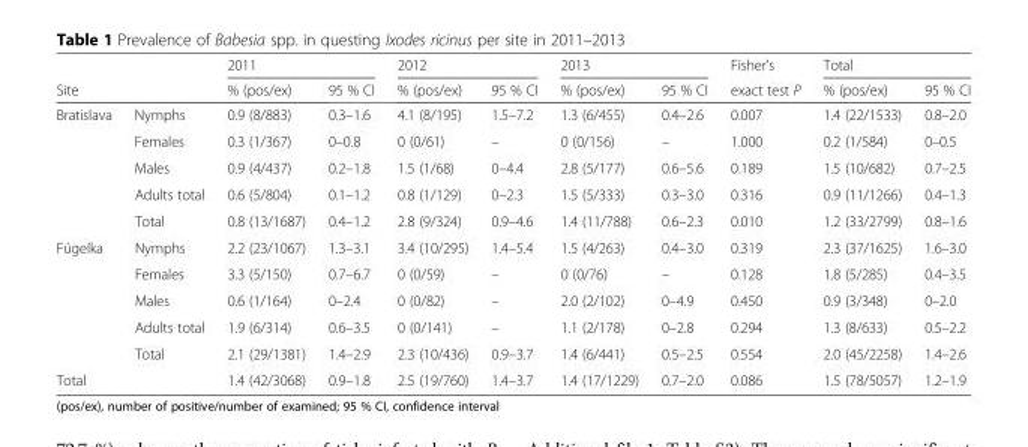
<table><thead><tr><td rowspan="2">Site</td><td rowspan="2"></td><td colspan="2">2011</td><td colspan="2">2012</td><td colspan="2">2013</td><td rowspan="2">Fisher’s exact test P</td><td colspan="2">Total</td></tr><tr><td>% (pos/ex)</td><td>95 % CI</td><td>% (pos/ex)</td><td>95 % CI</td><td>% (pos/ex)</td><td>95 % CI</td><td>% (pos/ex)</td><td>95 % CI</td></tr></thead><tbody><tr><td rowspan="5">Bratislava</td><td>Nymphs</td><td>0.9 (8/883)</td><td>0.3–1.6</td><td>4.1 (8/195)</td><td>1.5–7.2</td><td>1.3 (6/455)</td><td>0.4–2.6</td><td>0.007</td><td>1.4 (22/1533)</td><td>0.8–2.0</td></tr><tr><td>Females</td><td>0.3 (1/367)</td><td>0–0.8</td><td>0 (0/61)</td><td>–</td><td>0 (0/156)</td><td>–</td><td>1.000</td><td>0.2 (1/584)</td><td>0–0.5</td></tr><tr><td>Males</td><td>0.9 (4/437)</td><td>0.2–1.8</td><td>1.5 (1/68)</td><td>0–4.4</td><td>2.8 (5/177)</td><td>0.6–5.6</td><td>0.189</td><td>1.5 (10/682)</td><td>0.7–2.5</td></tr><tr><td>Adults total</td><td>0.6 (5/804)</td><td>0.1–1.2</td><td>0.8 (1/129)</td><td>0–2.3</td><td>1.5 (5/333)</td><td>0.3–3.0</td><td>0.316</td><td>0.9 (11/1266)</td><td>0.4–1.3</td></tr><tr><td>Total</td><td>0.8 (13/1687)</td><td>0.4–1.2</td><td>2.8 (9/324)</td><td>0.9–4.6</td><td>1.4 (11/788)</td><td>0.6–2.3</td><td>0.010</td><td>1.2 (33/2799)</td><td>0.8–1.6</td></tr><tr><td rowspan="5">Fúgelka</td><td>Nymphs</td><td>2.2 (23/1067)</td><td>1.3–3.1</td><td>3.4 (10/295)</td><td>1.4–5.4</td><td>1.5 (4/263)</td><td>0.4–3.0</td><td>0.319</td><td>2.3 (37/1625)</td><td>1.6–3.0</td></tr><tr><td>Females</td><td>3.3 (5/150)</td><td>0.7–6.7</td><td>0 (0/59)</td><td>–</td><td>0 (0/76)</td><td>–</td><td>0.128</td><td>1.8 (5/285)</td><td>0.4–3.5</td></tr><tr><td>Males</td><td>0.6 (1/164)</td><td>0–2.4</td><td>0 (0/82)</td><td>–</td><td>2.0 (2/102)</td><td>0–4.9</td><td>0.450</td><td>0.9 (3/348)</td><td>0–2.0</td></tr><tr><td>Adults total</td><td>1.9 (6/314)</td><td>0.6–3.5</td><td>0 (0/141)</td><td>–</td><td>1.1 (2/178)</td><td>0–2.8</td><td>0.294</td><td>1.3 (8/633)</td><td>0.5–2.2</td></tr><tr><td>Total</td><td>2.1 (29/1381)</td><td>1.4–2.9</td><td>2.3 (10/436)</td><td>0.9–3.7</td><td>1.4 (6/441)</td><td>0.5–2.5</td><td>0.554</td><td>2.0 (45/2258)</td><td>1.4–2.6</td></tr><tr><td>Total</td><td></td><td>1.4 (42/3068)</td><td>0.9–1.8</td><td>2.5 (19/760)</td><td>1.4–3.7</td><td>1.4 (17/1229)</td><td>0.7–2.0</td><td>0.086</td><td>1.5 (78/5057)</td><td>1.2–1.9</td></tr></tbody></table>